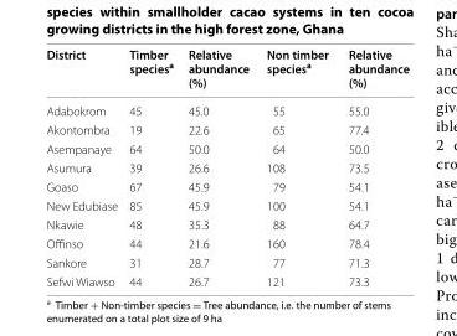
<table><thead><tr><td>District</td><td>Timber species<sup>a</sup></td><td>Relative abundance (%)</td><td>Non timber species<sup>a</sup></td><td>Relative abundance (%)</td></tr></thead><tbody><tr><td>Adabokrom</td><td>45</td><td>45.0</td><td>55</td><td>55.0</td></tr><tr><td>Akontombra</td><td>19</td><td>22.6</td><td>65</td><td>77.4</td></tr><tr><td>Asempanaye</td><td>64</td><td>50.0</td><td>64</td><td>50.0</td></tr><tr><td>Asumura</td><td>39</td><td>26.6</td><td>108</td><td>73.5</td></tr><tr><td>Goaso</td><td>67</td><td>45.9</td><td>79</td><td>54.1</td></tr><tr><td>New Edubiase</td><td>85</td><td>45.9</td><td>100</td><td>54.1</td></tr><tr><td>Nkawie</td><td>48</td><td>35.3</td><td>88</td><td>64.7</td></tr><tr><td>Offinso</td><td>44</td><td>21.6</td><td>160</td><td>78.4</td></tr><tr><td>Sankore</td><td>31</td><td>28.7</td><td>77</td><td>71.3</td></tr><tr><td>Sefwi Wiawso</td><td>44</td><td>26.7</td><td>121</td><td>73.3</td></tr></tbody></table>